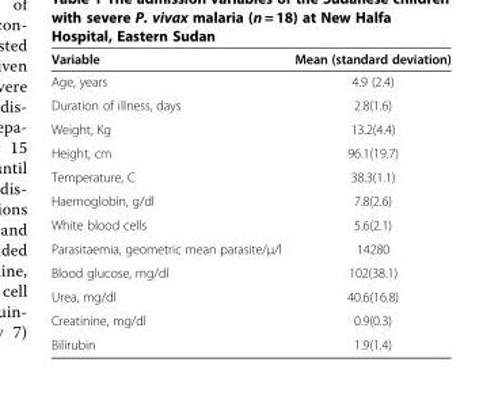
<table><thead><tr><td>Variable</td><td>Mean (standard deviation)</td></tr></thead><tbody><tr><td>Age, years</td><td>4.9 (2.4)</td></tr><tr><td>Duration of illness, days</td><td>2.8(1.6)</td></tr><tr><td>Weight, Kg</td><td>13.2(4.4)</td></tr><tr><td>Height, cm</td><td>96.1(19.7)</td></tr><tr><td>Temperature, C</td><td>38.3(1.1)</td></tr><tr><td>Haemoglobin, g/dl</td><td>7.8(2.6)</td></tr><tr><td>White blood cells</td><td>5.6(2.1)</td></tr><tr><td>Parasitaemia, geometric mean parasite/μ/l</td><td>14280</td></tr><tr><td>Blood glucose, mg/dl</td><td>102(38.1)</td></tr><tr><td>Urea, mg/dl</td><td>40.6(16.8)</td></tr><tr><td>Creatinine, mg/dl</td><td>0.9(0.3)</td></tr><tr><td>Bilirubin</td><td>1.9(1.4)</td></tr></tbody></table>